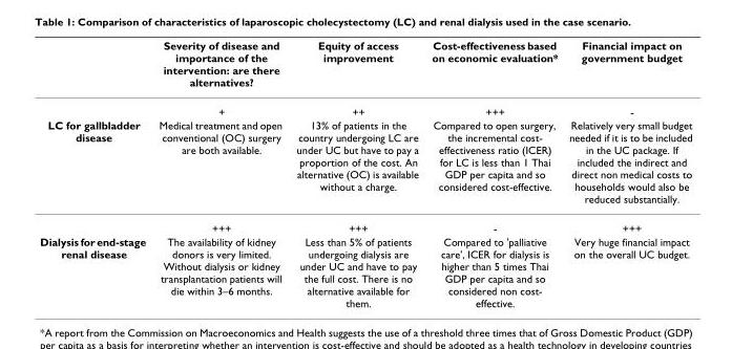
<table><thead><tr><td></td><td>Severity of disease and importance of the intervention: are there alternatives?</td><td>Equity of access improvement</td><td>Cost-effectiveness based on economic evaluation*</td><td>Financial impact on government budget</td></tr></thead><tbody><tr><td></td><td>+</td><td>++</td><td>+++</td><td>-</td></tr><tr><td rowspan="2">LC for gallbladder disease</td><td>Medical treatment and open conventional (OC) surgery are both available.</td><td>13% of patients in the country undergoing LC are under UC but have to pay a proportion of the cost. An alternative (OC) is available without a charge.</td><td>Compared to open surgery, the incremental cost- effectiveness ratio (ICER) for LC is less than 1 Thai GDP per capita and so considered cost-effective.</td><td>Relatively very small budget needed if it is to be included in the UC package. If included the indirect and direct non medical costs to households would also be reduced substantially.</td></tr><tr><td>+++</td><td>+++</td><td>-</td><td>+++</td></tr><tr><td>Dialysis for end-stage renal disease</td><td>The availability of kidney donors is very limited. Without dialysis or kidney transplantation patients will die within 3–6 months.</td><td>Less than 5% of patients undergoing dialysis are under UC and have to pay the full cost. There is no alternative available for them.</td><td>Compared to &#x27;palliative care&#x27;, ICER for dialysis is higher than 5 times Thai GDP per capita and so considered non cost- effective.</td><td>Very huge financial impact on the overall UC budget.</td></tr></tbody></table>